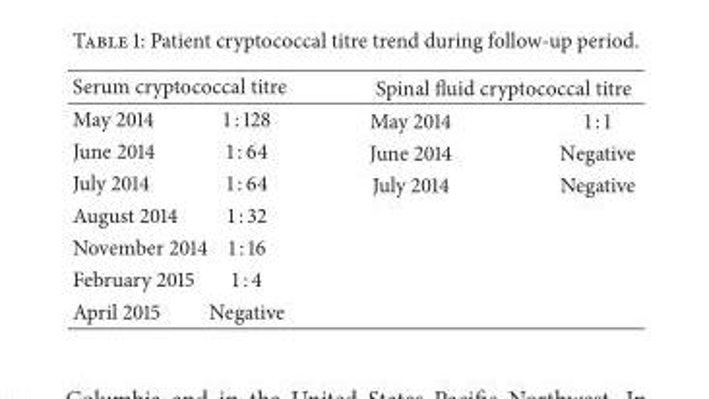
<table><thead><tr><td colspan="2">Serum cryptococcal titre</td><td colspan="2">Spinal fluid cryptococcal titre</td></tr><tr><td>May 2014</td><td>1 : 128</td><td>May 2014</td><td>1 : 1</td></tr></thead><tbody><tr><td>June 2014</td><td>1 : 64</td><td>June 2014</td><td>Negative</td></tr><tr><td>July 2014</td><td>1 : 64</td><td>July 2014</td><td>Negative</td></tr><tr><td>August 2014</td><td>1 : 32</td><td></td><td></td></tr><tr><td>November 2014</td><td>1 : 16</td><td></td><td></td></tr><tr><td>February 2015</td><td>1 : 4</td><td></td><td></td></tr><tr><td>April 2015</td><td>Negative</td><td></td><td></td></tr></tbody></table>